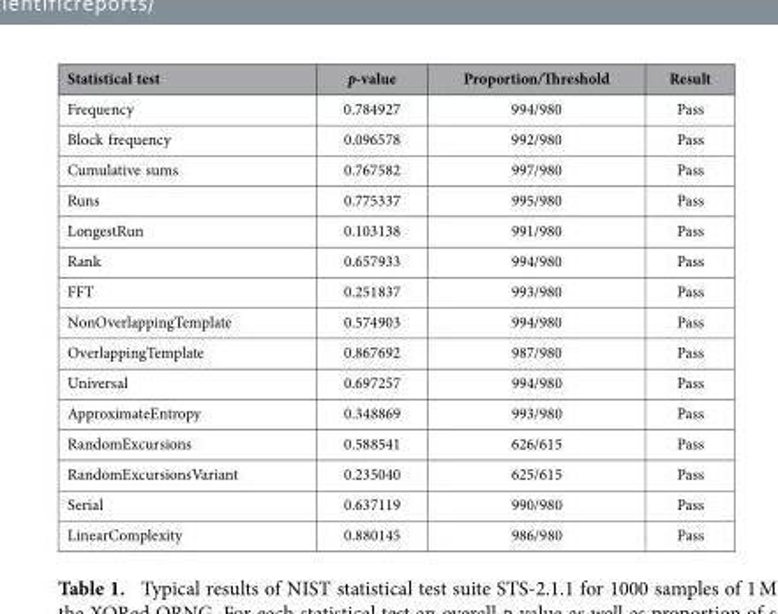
<table><thead><tr><td>Statistical test</td><td>p-value</td><td>Proportion/Threshold</td><td>Result</td></tr></thead><tbody><tr><td>Frequency</td><td>0.784927</td><td>994/980</td><td>Pass</td></tr><tr><td>Block frequency</td><td>0.096578</td><td>992/980</td><td>Pass</td></tr><tr><td>Cumulative sums</td><td>0.767582</td><td>997/980</td><td>Pass</td></tr><tr><td>Runs</td><td>0.775337</td><td>995/980</td><td>Pass</td></tr><tr><td>LongestRun</td><td>0.103138</td><td>991/980</td><td>Pass</td></tr><tr><td>Rank</td><td>0.657933</td><td>994/980</td><td>Pass</td></tr><tr><td>FFT</td><td>0.251837</td><td>993/980</td><td>Pass</td></tr><tr><td>NonOverlappingTemplate</td><td>0.574903</td><td>994/980</td><td>Pass</td></tr><tr><td>OverlappingTemplate</td><td>0.867692</td><td>987/980</td><td>Pass</td></tr><tr><td>Universal</td><td>0.697257</td><td>994/980</td><td>Pass</td></tr><tr><td>ApproximateEntropy</td><td>0.348869</td><td>993/980</td><td>Pass</td></tr><tr><td>RandomExcursions</td><td>0.588541</td><td>626/615</td><td>Pass</td></tr><tr><td>RandomExcursionsVariant</td><td>0.235040</td><td>625/615</td><td>Pass</td></tr><tr><td>Serial</td><td>0.637119</td><td>990/980</td><td>Pass</td></tr><tr><td>LinearComplexity</td><td>0.880145</td><td>986/980</td><td>Pass</td></tr></tbody></table>